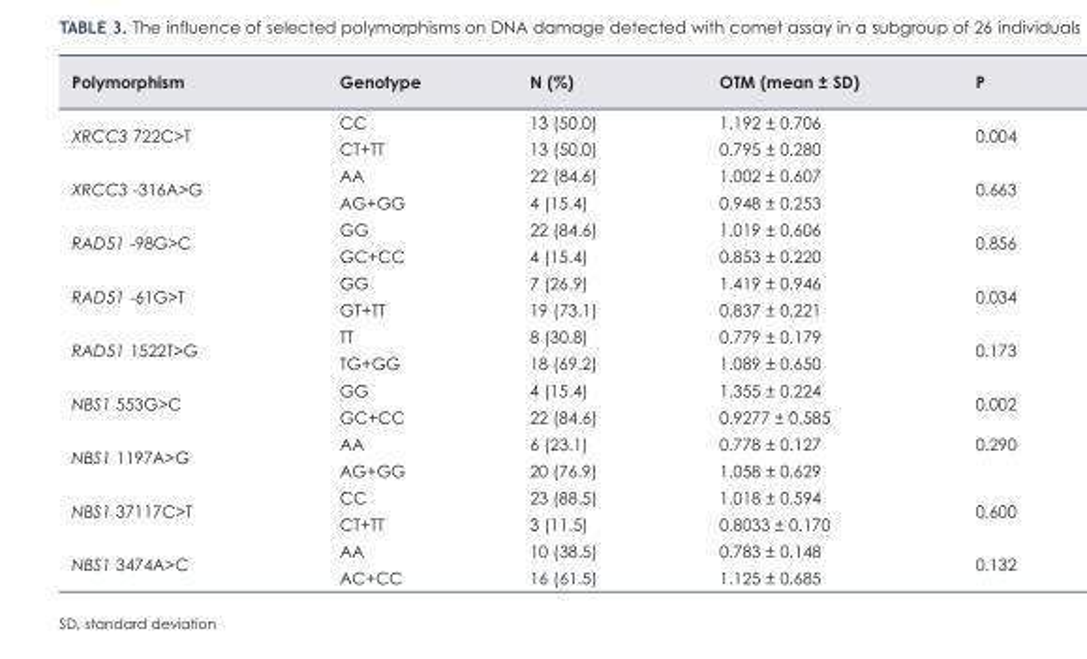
<table><thead><tr><td>Polymorphism</td><td>Genotype</td><td>N (%)</td><td>OTM (mean ± SD)</td><td>P</td></tr></thead><tbody><tr><td rowspan="2">XRCC3 722C&gt;T</td><td>CC</td><td>13 (50.0)</td><td>1.192 ± 0.706</td><td rowspan="2">0.004</td></tr><tr><td>CT+TT</td><td>13 (50.0)</td><td>0.795 ± 0.280</td></tr><tr><td rowspan="2">XRCC3 -316A&gt;G</td><td>AA</td><td>22 (84.6)</td><td>1.002 ± 0.607</td><td rowspan="2">0.663</td></tr><tr><td>AG+GG</td><td>4 (15.4)</td><td>0.948 ± 0.253</td></tr><tr><td rowspan="2">RAD51 -98G&gt;C</td><td>GG</td><td>22 (84.6)</td><td>1.019 ± 0.606</td><td rowspan="2">0.856</td></tr><tr><td>GC+CC</td><td>4 (15.4)</td><td>0.853 ± 0.220</td></tr><tr><td rowspan="2">RAD51 -61G&gt;T</td><td>GG</td><td>7 (26.9)</td><td>1.419 ± 0.946</td><td rowspan="2">0.034</td></tr><tr><td>GT+TT</td><td>19 (73.1)</td><td>0.837 ± 0.221</td></tr><tr><td rowspan="2">RAD51 1522T&gt;G</td><td>TT</td><td>8 (30.8)</td><td>0.779 ± 0.179</td><td rowspan="2">0.173</td></tr><tr><td>TG+GG</td><td>18 (69.2)</td><td>1.089 ± 0.650</td></tr><tr><td rowspan="2">NBS1 553G&gt;C</td><td>GG</td><td>4 (15.4)</td><td>1.355 ± 0.224</td><td rowspan="2">0.002</td></tr><tr><td>GC+CC</td><td>22 (84.6)</td><td>0.9277 ± 0.585</td></tr><tr><td rowspan="2">NBS1 1197A&gt;G</td><td>AA</td><td>6 (23.1)</td><td>0.778 ± 0.127</td><td rowspan="2">0.290</td></tr><tr><td>AG+GG</td><td>20 (76.9)</td><td>1.058 ± 0.629</td></tr><tr><td rowspan="2">NBS1 37117C&gt;T</td><td>CC</td><td>23 (88.5)</td><td>1.018 ± 0.594</td><td rowspan="2">0.600</td></tr><tr><td>CT+TT</td><td>3 (11.5)</td><td>0.8033 ± 0.170</td></tr><tr><td rowspan="2">NBS1 3474A&gt;C</td><td>AA</td><td>10 (38.5)</td><td>0.783 ± 0.148</td><td rowspan="2">0.132</td></tr><tr><td>AC+CC</td><td>16 (61.5)</td><td>1.125 ± 0.685</td></tr></tbody></table>